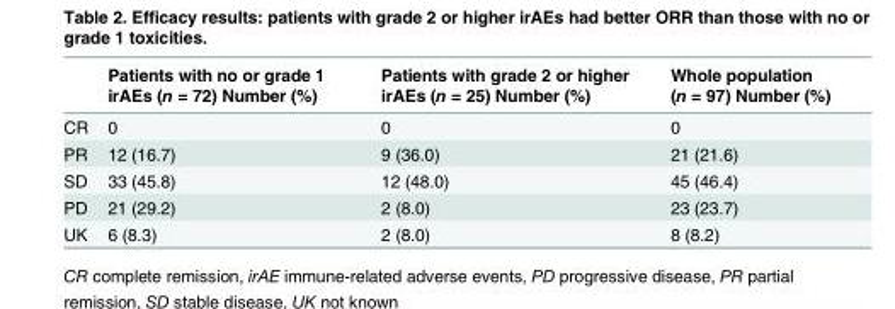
<table><thead><tr><td></td><td>Patients with no or grade 1 irAEs (n = 72) Number (%)</td><td>Patients with grade 2 or higher irAEs (n = 25) Number (%)</td><td>Whole population (n = 97) Number (%)</td></tr></thead><tbody><tr><td>CR</td><td>0</td><td>0</td><td>0</td></tr><tr><td>PR</td><td>12 (16.7)</td><td>9 (36.0)</td><td>21 (21.6)</td></tr><tr><td>SD</td><td>33 (45.8)</td><td>12 (48.0)</td><td>45 (46.4)</td></tr><tr><td>PD</td><td>21 (29.2)</td><td>2 (8.0)</td><td>23 (23.7)</td></tr><tr><td>UK</td><td>6 (8.3)</td><td>2 (8.0)</td><td>8 (8.2)</td></tr></tbody></table>